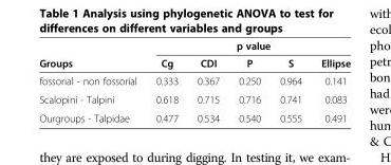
<table><thead><tr><td rowspan="2">Groups</td><td colspan="5">p value</td></tr><tr><td>Cg</td><td>CDI</td><td>P</td><td>S</td><td>Ellipse</td></tr></thead><tbody><tr><td>fossorial - non fossorial</td><td>0.333</td><td>0.367</td><td>0.250</td><td>0.964</td><td>0.141</td></tr><tr><td>Scalopini - Talpini</td><td>0.618</td><td>0.715</td><td>0.716</td><td>0.741</td><td>0.083</td></tr><tr><td>Ourgroups - Talpidae</td><td>0.477</td><td>0.534</td><td>0.540</td><td>0.555</td><td>0.491</td></tr></tbody></table>